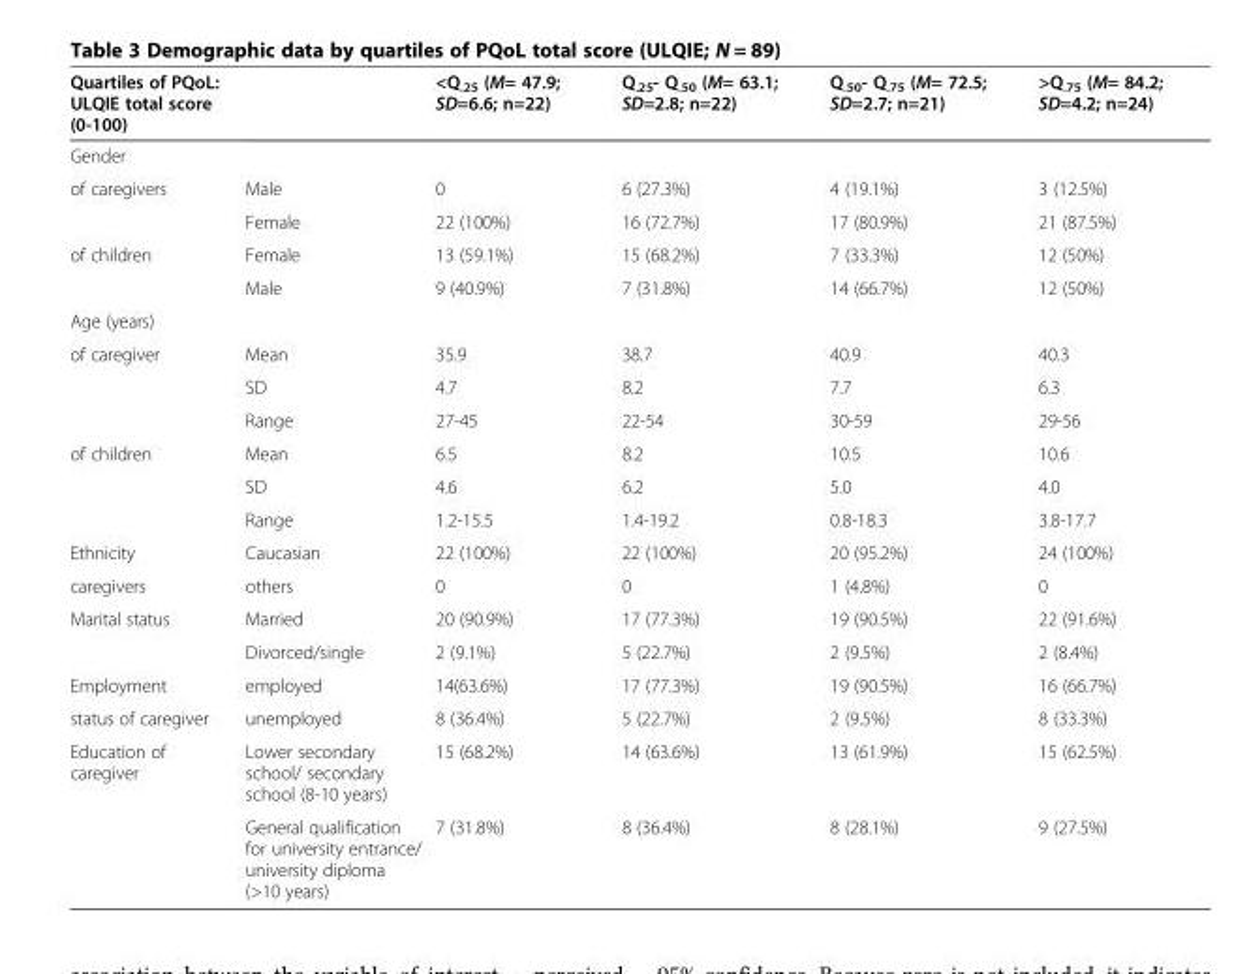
<table><thead><tr><td>Quartiles of PQoL: ULQIE total score (0-100)</td><td></td><td>&lt;Q<sub>.25</sub> (M= 47.9; SD=6.6; n=22)</td><td>Q<sub>.25</sub>- Q<sub>.50</sub> (M= 63.1; SD=2.8; n=22)</td><td>Q<sub>.50</sub>- Q<sub>.75</sub> (M= 72.5; SD=2.7; n=21)</td><td>&gt;Q<sub>.75</sub> (M= 84.2; SD=4.2; n=24)</td></tr></thead><tbody><tr><td colspan="6">Gender</td></tr><tr><td rowspan="2">of caregivers</td><td>Male</td><td>0</td><td>6 (27.3%)</td><td>4 (19.1%)</td><td>3 (12.5%)</td></tr><tr><td>Female</td><td>22 (100%)</td><td>16 (72.7%)</td><td>17 (80.9%)</td><td>21 (87.5%)</td></tr><tr><td rowspan="2">of children</td><td>Female</td><td>13 (59.1%)</td><td>15 (68.2%)</td><td>7 (33.3%)</td><td>12 (50%)</td></tr><tr><td>Male</td><td>9 (40.9%)</td><td>7 (31.8%)</td><td>14 (66.7%)</td><td>12 (50%)</td></tr><tr><td colspan="6">Age (years)</td></tr><tr><td rowspan="3">of caregiver</td><td>Mean</td><td>35.9</td><td>38.7</td><td>40.9</td><td>40.3</td></tr><tr><td>SD</td><td>4.7</td><td>8.2</td><td>7.7</td><td>6.3</td></tr><tr><td>Range</td><td>27-45</td><td>22-54</td><td>30-59</td><td>29-56</td></tr><tr><td rowspan="3">of children</td><td>Mean</td><td>6.5</td><td>8.2</td><td>10.5</td><td>10.6</td></tr><tr><td>SD</td><td>4.6</td><td>6.2</td><td>5.0</td><td>4.0</td></tr><tr><td>Range</td><td>1.2-15.5</td><td>1.4-19.2</td><td>0.8-18.3</td><td>3.8-17.7</td></tr><tr><td>Ethnicity</td><td>Caucasian</td><td>22 (100%)</td><td>22 (100%)</td><td>20 (95.2%)</td><td>24 (100%)</td></tr><tr><td>caregivers</td><td>others</td><td>0</td><td>0</td><td>1 (4.8%)</td><td>0</td></tr><tr><td rowspan="2">Marital status</td><td>Married</td><td>20 (90.9%)</td><td>17 (77.3%)</td><td>19 (90.5%)</td><td>22 (91.6%)</td></tr><tr><td>Divorced/single</td><td>2 (9.1%)</td><td>5 (22.7%)</td><td>2 (9.5%)</td><td>2 (8.4%)</td></tr><tr><td>Employment</td><td>employed</td><td>14(63.6%)</td><td>17 (77.3%)</td><td>19 (90.5%)</td><td>16 (66.7%)</td></tr><tr><td>status of caregiver</td><td>unemployed</td><td>8 (36.4%)</td><td>5 (22.7%)</td><td>2 (9.5%)</td><td>8 (33.3%)</td></tr><tr><td rowspan="2">Education of caregiver</td><td>Lower secondary school/ secondary school (8-10 years)</td><td>15 (68.2%)</td><td>14 (63.6%)</td><td>13 (61.9%)</td><td>15 (62.5%)</td></tr><tr><td>General qualification for university entrance/ university diploma (&gt;10 years)</td><td>7 (31.8%)</td><td>8 (36.4%)</td><td>8 (28.1%)</td><td>9 (27.5%)</td></tr></tbody></table>